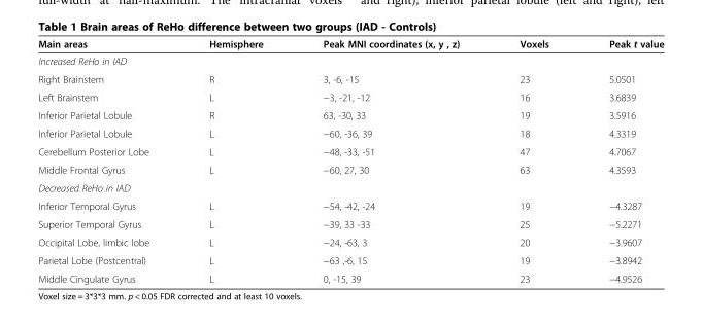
<table><thead><tr><td>Main areas</td><td>Hemisphere</td><td>Peak MNI coordinates (x, y , z)</td><td>Voxels</td><td>Peak t value</td></tr></thead><tbody><tr><td colspan="5">Increased ReHo in IAD</td></tr><tr><td>Right Brainstem</td><td>R</td><td>3, -6, -15</td><td>23</td><td>5.0501</td></tr><tr><td>Left Brainstem</td><td>L</td><td>−3, -21, -12</td><td>16</td><td>3.6839</td></tr><tr><td>Inferior Parietal Lobule</td><td>R</td><td>63, -30, 33</td><td>19</td><td>3.5916</td></tr><tr><td>Inferior Parietal Lobule</td><td>L</td><td>−60, -36, 39</td><td>18</td><td>4.3319</td></tr><tr><td>Cerebellum Posterior Lobe</td><td>L</td><td>−48, -33, -51</td><td>47</td><td>4.7067</td></tr><tr><td>Middle Frontal Gyrus</td><td>L</td><td>−60, 27, 30</td><td>63</td><td>4.3593</td></tr><tr><td colspan="5">Decreased ReHo in IAD</td></tr><tr><td>Inferior Temporal Gyrus</td><td>L</td><td>−54, -42, -24</td><td>19</td><td>−4.3287</td></tr><tr><td>Superior Temporal Gyrus</td><td>L</td><td>−39, 33 -33</td><td>25</td><td>−5.2271</td></tr><tr><td>Occipital Lobe, limbic lobe</td><td>L</td><td>−24, -63, 3</td><td>20</td><td>−3.9607</td></tr><tr><td>Parietal Lobe (Postcentral)</td><td>L</td><td>−63 ,-6, 15</td><td>19</td><td>−3.8942</td></tr><tr><td>Middle Cingulate Gyrus</td><td>L</td><td>0, -15, 39</td><td>23</td><td>−4.9526</td></tr></tbody></table>